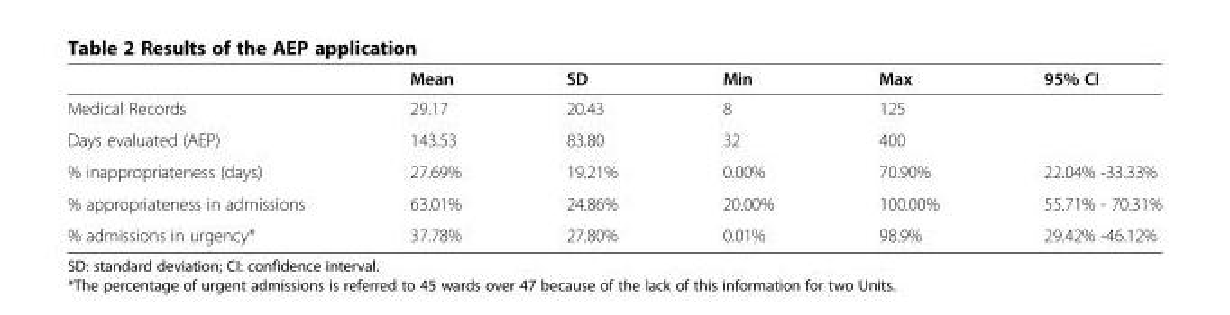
<table><thead><tr><td></td><td>Mean</td><td>SD</td><td>Min</td><td>Max</td><td>95% CI</td></tr></thead><tbody><tr><td>Medical Records</td><td>29.17</td><td>20.43</td><td>8</td><td>125</td><td></td></tr><tr><td>Days evaluated (AEP)</td><td>143.53</td><td>83.80</td><td>32</td><td>400</td><td></td></tr><tr><td>% inappropriateness (days)</td><td>27.69%</td><td>19.21%</td><td>0.00%</td><td>70.90%</td><td>22.04% -33.33%</td></tr><tr><td>% appropriateness in admissions</td><td>63.01%</td><td>24.86%</td><td>20.00%</td><td>100.00%</td><td>55.71% - 70.31%</td></tr><tr><td>% admissions in urgency*</td><td>37.78%</td><td>27.80%</td><td>0.01%</td><td>98.9%</td><td>29.42% -46.12%</td></tr></tbody></table>